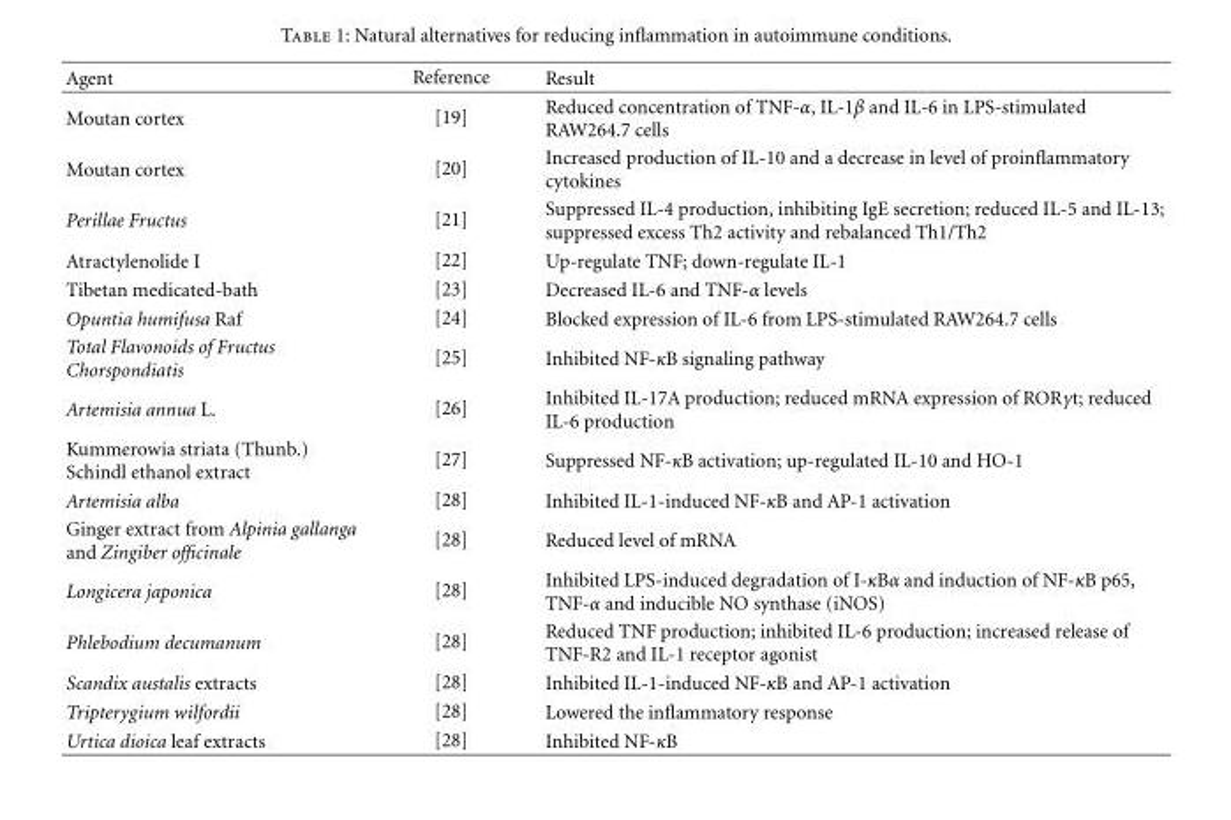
<table><thead><tr><td>Agent</td><td>Reference</td><td>Result</td></tr></thead><tbody><tr><td>Moutan cortex</td><td>[19]</td><td>Reduced concentration of TNF-α, IL-1β and IL-6 in LPS-stimulated RAW264.7 cells</td></tr><tr><td>Moutan cortex</td><td>[20]</td><td>Increased production of IL-10 and a decrease in level of proinflammatory cytokines</td></tr><tr><td>Perillae Fructus</td><td>[21]</td><td>Suppressed IL-4 production, inhibiting IgE secretion; reduced IL-5 and IL-13; suppressed excess Th2 activity and rebalanced Th1/Th2</td></tr><tr><td>Atractylenolide I</td><td>[22]</td><td>Up-regulate TNF; down-regulate IL-1</td></tr><tr><td>Tibetan medicated-bath</td><td>[23]</td><td>Decreased IL-6 and TNF-α levels</td></tr><tr><td>Opuntia humifusa Raf</td><td>[24]</td><td>Blocked expression of IL-6 from LPS-stimulated RAW264.7 cells</td></tr><tr><td>Total Flavonoids of Fructus Chorspondiatis</td><td>[25]</td><td>Inhibited NF-κB signaling pathway</td></tr><tr><td>Artemisia annua L.</td><td>[26]</td><td>Inhibited IL-17A production; reduced mRNA expression of RORγt; reduced IL-6 production</td></tr><tr><td>Kummerowia striata (Thunb.) Schindl ethanol extract</td><td>[27]</td><td>Suppressed NF-κB activation; up-regulated IL-10 and HO-1</td></tr><tr><td>Artemisia alba</td><td>[28]</td><td>Inhibited IL-1-induced NF-κB and AP-1 activation</td></tr><tr><td>Ginger extract from Alpinia gallanga and Zingiber officinale</td><td>[28]</td><td>Reduced level of mRNA</td></tr><tr><td>Longicera japonica</td><td>[28]</td><td>Inhibited LPS-induced degradation of I-κBα and induction of NF-κB p65, TNF-α and inducible NO synthase (iNOS)</td></tr><tr><td>Phlebodium decumanum</td><td>[28]</td><td>Reduced TNF production; inhibited IL-6 production; increased release of TNF-R2 and IL-1 receptor agonist</td></tr><tr><td>Scandix austalis extracts</td><td>[28]</td><td>Inhibited IL-1-induced NF-κB and AP-1 activation</td></tr><tr><td>Tripterygium wilfordii</td><td>[28]</td><td>Lowered the inflammatory response</td></tr><tr><td>Urtica dioica leaf extracts</td><td>[28]</td><td>Inhibited NF-κB</td></tr></tbody></table>